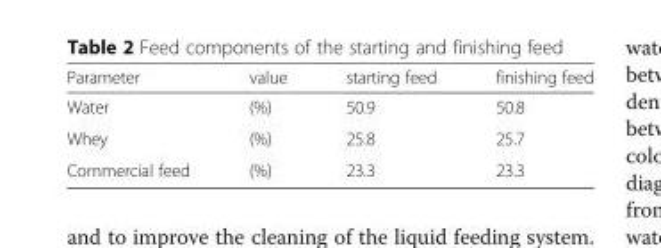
<table><thead><tr><td>Parameter</td><td>value</td><td>starting feed</td><td>finishing feed</td></tr></thead><tbody><tr><td>Water</td><td>(%)</td><td>50.9</td><td>50.8</td></tr><tr><td>Whey</td><td>(%)</td><td>25.8</td><td>25.7</td></tr><tr><td>Commercial feed</td><td>(%)</td><td>23.3</td><td>23.3</td></tr></tbody></table>